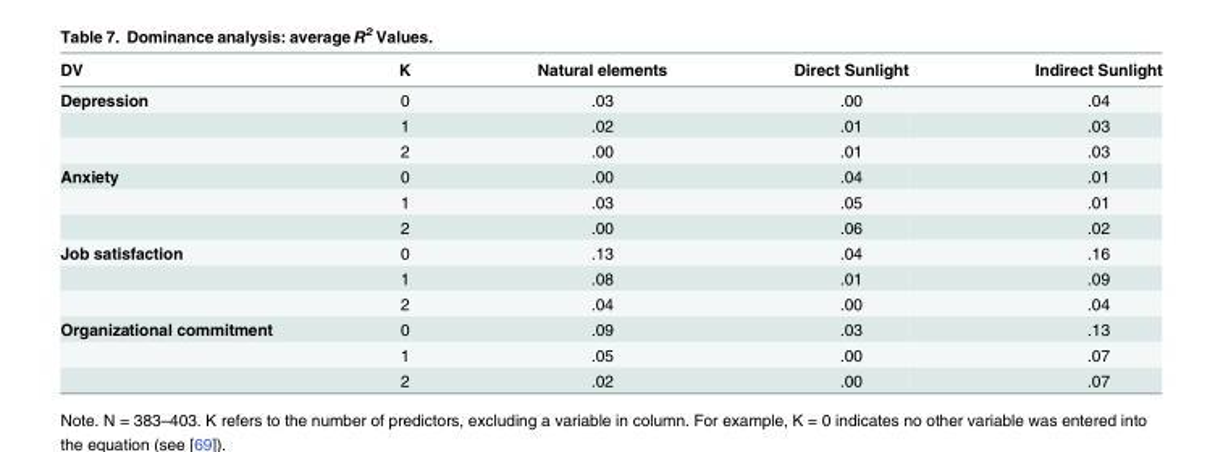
<table><thead><tr><td>DV</td><td>K</td><td>Natural elements</td><td>Direct Sunlight</td><td>Indirect Sunlight</td></tr></thead><tbody><tr><td rowspan="3">Depression</td><td>0</td><td>.03</td><td>.00</td><td>.04</td></tr><tr><td>1</td><td>.02</td><td>.01</td><td>.03</td></tr><tr><td>2</td><td>.00</td><td>.01</td><td>.03</td></tr><tr><td rowspan="3">Anxiety</td><td>0</td><td>.00</td><td>.04</td><td>.01</td></tr><tr><td>1</td><td>.03</td><td>.05</td><td>.01</td></tr><tr><td>2</td><td>.00</td><td>.06</td><td>.02</td></tr><tr><td rowspan="3">Job satisfaction</td><td>0</td><td>.13</td><td>.04</td><td>.16</td></tr><tr><td>1</td><td>.08</td><td>.01</td><td>.09</td></tr><tr><td>2</td><td>.04</td><td>.00</td><td>.04</td></tr><tr><td rowspan="3">Organizational commitment</td><td>0</td><td>.09</td><td>.03</td><td>.13</td></tr><tr><td>1</td><td>.05</td><td>.00</td><td>.07</td></tr><tr><td>2</td><td>.02</td><td>.00</td><td>.07</td></tr></tbody></table>